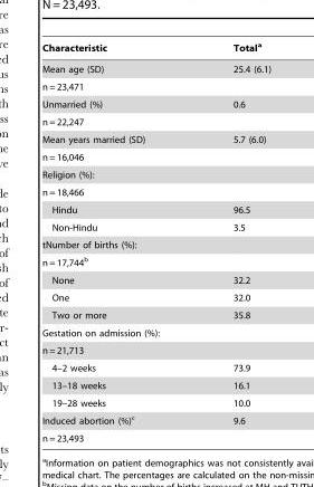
<table><thead><tr><td>Characteristic</td><td>Total<sup>a</sup></td></tr></thead><tbody><tr><td>Mean age (SD)</td><td>25.4 (6.1)</td></tr><tr><td colspan="2">n = 23,471</td></tr><tr><td>Unmarried (%)</td><td>0.6</td></tr><tr><td colspan="2">n = 22,247</td></tr><tr><td>Mean years married (SD)</td><td>5.7 (6.0)</td></tr><tr><td colspan="2">n = 16,046</td></tr><tr><td colspan="2">Religion (%):</td></tr><tr><td colspan="2">n = 18,466</td></tr><tr><td>Hindu</td><td>96.5</td></tr><tr><td>Non-Hindu</td><td>3.5</td></tr><tr><td colspan="2">tNumber of births (%):</td></tr><tr><td colspan="2">n = 17,744<sup>b</sup></td></tr><tr><td>None</td><td>32.2</td></tr><tr><td>One</td><td>32.0</td></tr><tr><td>Two or more</td><td>35.8</td></tr><tr><td colspan="2">Gestation on admission (%):</td></tr><tr><td colspan="2">n = 21,713</td></tr><tr><td>4–2 weeks</td><td>73.9</td></tr><tr><td>13–18 weeks</td><td>16.1</td></tr><tr><td>19–28 weeks</td><td>10.0</td></tr><tr><td>Induced abortion (%)<sup>c</sup></td><td>9.6</td></tr><tr><td>n = 23,493</td><td></td></tr></tbody></table>